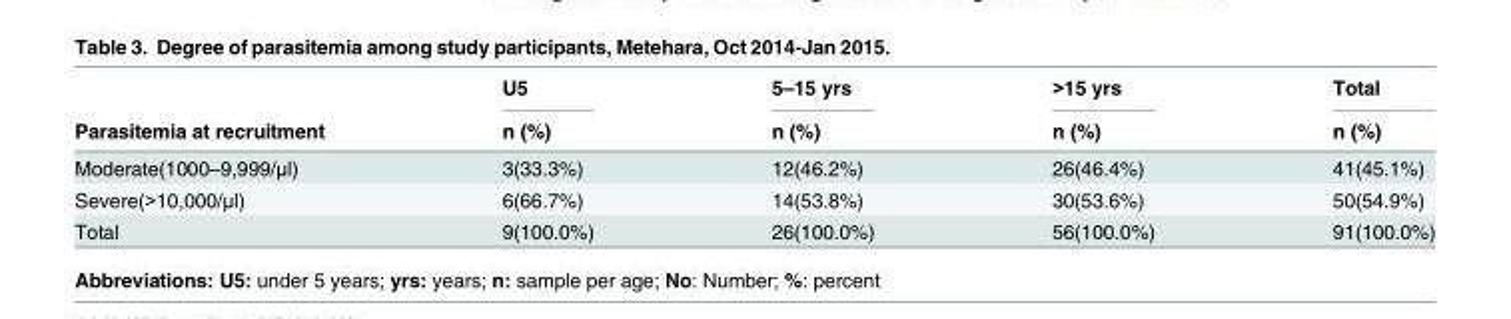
<table><thead><tr><td rowspan="2">Parasitemia at recruitment</td><td rowspan="2">U5 n (%)</td><td rowspan="2">5–15 yrs n (%)</td><td rowspan="2">&gt;15 yrs n (%)</td><td rowspan="2">Total n (%)</td></tr><tr></tr></thead><tbody><tr><td>Moderate(1000–9,999/μl)</td><td>3(33.3%)</td><td>12(46.2%)</td><td>26(46.4%)</td><td>41(45.1%)</td></tr><tr><td>Severe(&gt;10,000/μl)</td><td>6(66.7%)</td><td>14(53.8%)</td><td>30(53.6%)</td><td>50(54.9%)</td></tr><tr><td>Total</td><td>9(100.0%)</td><td>26(100.0%)</td><td>56(100.0%)</td><td>91(100.0%)</td></tr></tbody></table>